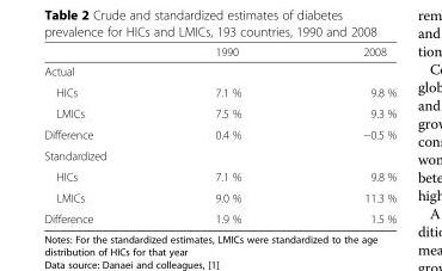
<table><thead><tr><td></td><td>1990</td><td>2008</td></tr></thead><tbody><tr><td colspan="3">Actual</td></tr><tr><td>HICs</td><td>7.1 %</td><td>9.8 %</td></tr><tr><td>LMICs</td><td>7.5 %</td><td>9.3 %</td></tr><tr><td>Difference</td><td>0.4 %</td><td>−0.5 %</td></tr><tr><td colspan="3">Standardized</td></tr><tr><td>HICs</td><td>7.1 %</td><td>9.8 %</td></tr><tr><td>LMICs</td><td>9.0 %</td><td>11.3 %</td></tr><tr><td>Difference</td><td>1.9 %</td><td>1.5 %</td></tr></tbody></table>